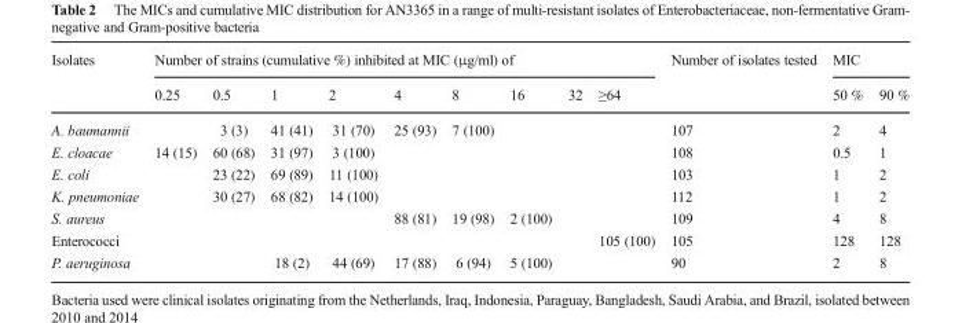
<table><thead><tr><td rowspan="2">Isolates</td><td colspan="9">Number of strains (cumulative %) inhibited at MIC (μg/ml) of</td><td rowspan="2">Number of isolates tested</td><td colspan="2">MIC</td></tr><tr><td>0.25</td><td>0.5</td><td>1</td><td>2</td><td>4</td><td>8</td><td>16</td><td>32</td><td>≥64</td><td>50 %</td><td>90 %</td></tr></thead><tbody><tr><td>A. baumannii</td><td></td><td>3 (3)</td><td>41 (41)</td><td>31 (70)</td><td>25 (93)</td><td>7 (100)</td><td></td><td></td><td></td><td>107</td><td>2</td><td>4</td></tr><tr><td>E. cloacae</td><td>14 (15)</td><td>60 (68)</td><td>31 (97)</td><td>3 (100)</td><td></td><td></td><td></td><td></td><td></td><td>108</td><td>0.5</td><td>1</td></tr><tr><td>E. coli</td><td></td><td>23 (22)</td><td>69 (89)</td><td>11 (100)</td><td></td><td></td><td></td><td></td><td></td><td>103</td><td>1</td><td>2</td></tr><tr><td>K. pneumoniae</td><td></td><td>30 (27)</td><td>68 (82)</td><td>14 (100)</td><td></td><td></td><td></td><td></td><td></td><td>112</td><td>1</td><td>2</td></tr><tr><td>S. aureus</td><td></td><td></td><td></td><td></td><td>88 (81)</td><td>19 (98)</td><td>2 (100)</td><td></td><td></td><td>109</td><td>4</td><td>8</td></tr><tr><td>Enterococci</td><td></td><td></td><td></td><td></td><td></td><td></td><td></td><td></td><td>105 (100)</td><td>105</td><td>128</td><td>128</td></tr><tr><td>P. aeruginosa</td><td></td><td></td><td>18 (2)</td><td>44 (69)</td><td>17 (88)</td><td>6 (94)</td><td>5 (100)</td><td></td><td></td><td>90</td><td>2</td><td>8</td></tr></tbody></table>